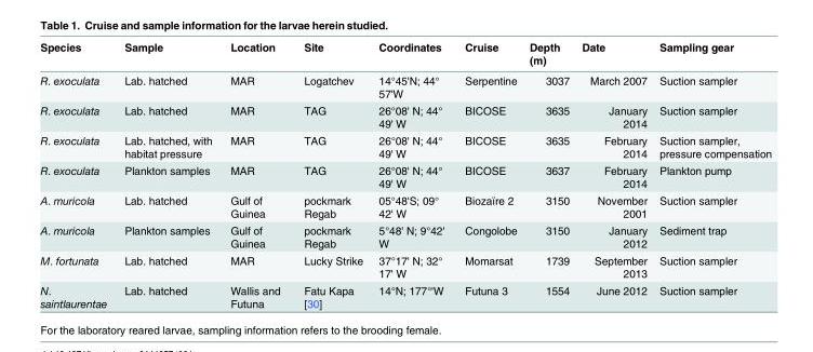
<table><thead><tr><td>Species</td><td>Sample</td><td>Location</td><td>Site</td><td>Coordinates</td><td>Cruise</td><td>Depth (m)</td><td>Date</td><td>Sampling gear</td></tr></thead><tbody><tr><td>R. exoculata</td><td>Lab. hatched</td><td>MAR</td><td>Logatchev</td><td>14°45&#x27;N; 44° 57&#x27;W</td><td>Serpentine</td><td>3037</td><td>March 2007</td><td>Suction sampler</td></tr><tr><td>R. exoculata</td><td>Lab. hatched</td><td>MAR</td><td>TAG</td><td>26°08&#x27; N; 44° 49&#x27; W</td><td>BICOSE</td><td>3635</td><td>January 2014</td><td>Suction sampler</td></tr><tr><td>R. exoculata</td><td>Lab. hatched, with habitat pressure</td><td>MAR</td><td>TAG</td><td>26°08&#x27; N; 44° 49&#x27; W</td><td>BICOSE</td><td>3635</td><td>February 2014</td><td>Suction sampler, pressure compensation</td></tr><tr><td>R. exoculata</td><td>Plankton samples</td><td>MAR</td><td>TAG</td><td>26°08&#x27; N; 44° 49&#x27; W</td><td>BICOSE</td><td>3637</td><td>February 2014</td><td>Plankton pump</td></tr><tr><td>A. muricola</td><td>Lab. hatched</td><td>Gulf of Guinea</td><td>pockmark Regab</td><td>05°48&#x27;S; 09° 42&#x27; W</td><td>Biozaïre 2</td><td>3150</td><td>November 2001</td><td>Suction sampler</td></tr><tr><td>A. muricola</td><td>Plankton samples</td><td>Gulf of Guinea</td><td>pockmark Regab</td><td>5°48&#x27; N; 9°42&#x27; W</td><td>Congolobe</td><td>3150</td><td>January 2012</td><td>Sediment trap</td></tr><tr><td>M. fortunata</td><td>Lab. hatched</td><td>MAR</td><td>Lucky Strike</td><td>37°17&#x27; N; 32° 17&#x27; W</td><td>Momarsat</td><td>1739</td><td>September 2013</td><td>Suction sampler</td></tr><tr><td>N. saintlaurentae</td><td>Lab. hatched</td><td>Wallis and Futuna</td><td>Fatu Kapa [30]</td><td>14°N; 177°&#x27;W</td><td>Futuna 3</td><td>1554</td><td>June 2012</td><td>Suction sampler</td></tr></tbody></table>